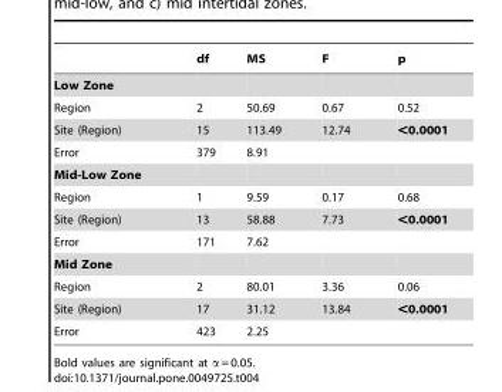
<table><thead><tr><td></td><td>df</td><td>MS</td><td>F</td><td>p</td></tr></thead><tbody><tr><td colspan="5">Low Zone</td></tr><tr><td>Region</td><td>2</td><td>50.69</td><td>0.67</td><td>0.52</td></tr><tr><td>Site (Region)</td><td>15</td><td>113.49</td><td>12.74</td><td>&lt;0.0001</td></tr><tr><td>Error</td><td>379</td><td>8.91</td><td></td><td></td></tr><tr><td colspan="5">Mid-Low Zone</td></tr><tr><td>Region</td><td>1</td><td>9.59</td><td>0.17</td><td>0.68</td></tr><tr><td>Site (Region)</td><td>13</td><td>58.88</td><td>7.73</td><td>&lt;0.0001</td></tr><tr><td>Error</td><td>171</td><td>7.62</td><td></td><td></td></tr><tr><td colspan="5">Mid Zone</td></tr><tr><td>Region</td><td>2</td><td>80.01</td><td>3.36</td><td>0.06</td></tr><tr><td>Site (Region)</td><td>17</td><td>31.12</td><td>13.84</td><td>&lt;0.0001</td></tr><tr><td>Error</td><td>423</td><td>2.25</td><td></td><td></td></tr></tbody></table>